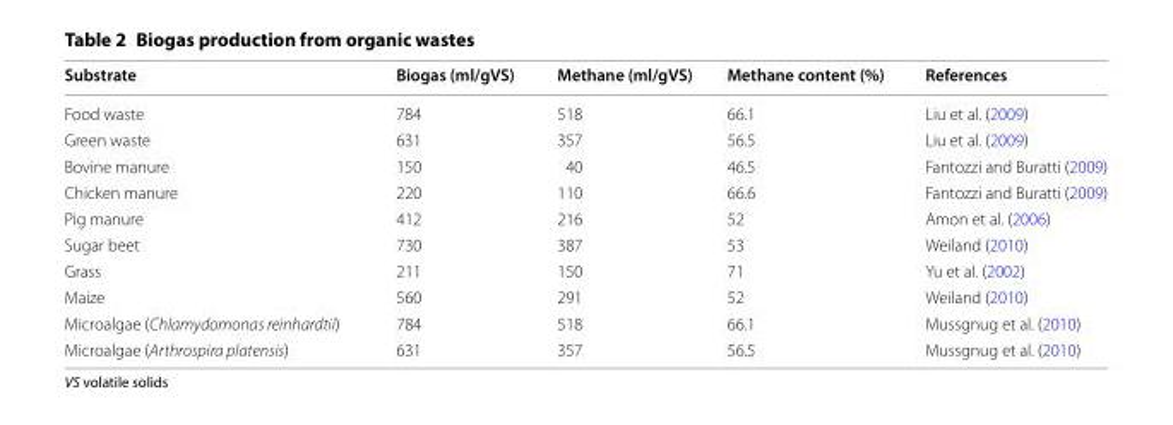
<table><thead><tr><td>Substrate</td><td>Biogas (ml/gVS)</td><td>Methane (ml/gVS)</td><td>Methane content (%)</td><td>References</td></tr></thead><tbody><tr><td>Food waste</td><td>784</td><td>518</td><td>66.1</td><td>Liu et al. (2009)</td></tr><tr><td>Green waste</td><td>631</td><td>357</td><td>56.5</td><td>Liu et al. (2009)</td></tr><tr><td>Bovine manure</td><td>150</td><td>40</td><td>46.5</td><td>Fantozzi and Buratti (2009)</td></tr><tr><td>Chicken manure</td><td>220</td><td>110</td><td>66.6</td><td>Fantozzi and Buratti (2009)</td></tr><tr><td>Pig manure</td><td>412</td><td>216</td><td>52</td><td>Amon et al. (2006)</td></tr><tr><td>Sugar beet</td><td>730</td><td>387</td><td>53</td><td>Weiland (2010)</td></tr><tr><td>Grass</td><td>211</td><td>150</td><td>71</td><td>Yu et al. (2002)</td></tr><tr><td>Maize</td><td>560</td><td>291</td><td>52</td><td>Weiland (2010)</td></tr><tr><td>Microalgae (Chlamydomonas reinhardtii)</td><td>784</td><td>518</td><td>66.1</td><td>Mussgnug et al. (2010)</td></tr><tr><td>Microalgae (Arthrospira platensis)</td><td>631</td><td>357</td><td>56.5</td><td>Mussgnug et al. (2010)</td></tr></tbody></table>